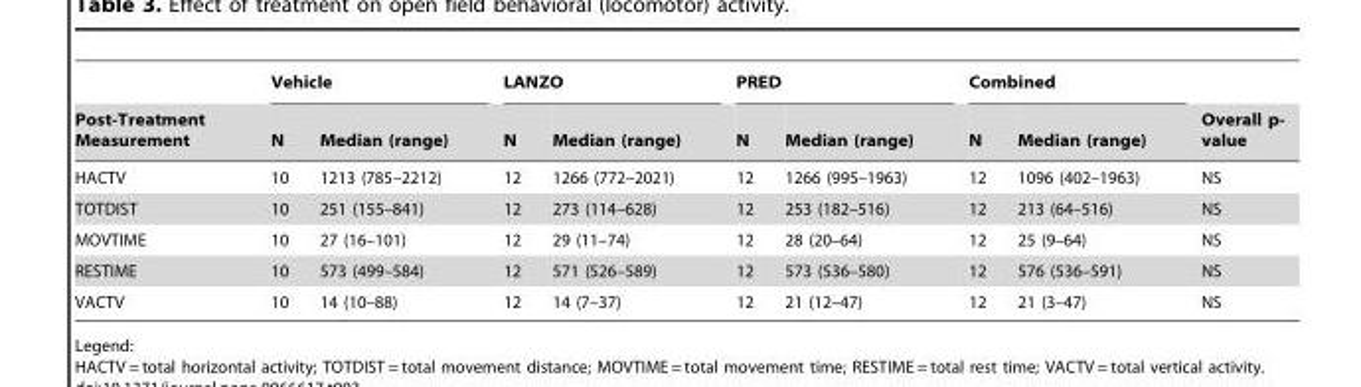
<table><thead><tr><td rowspan="2">Post-Treatment Measurement</td><td colspan="2">Vehicle</td><td colspan="2">LANZO</td><td colspan="2">PRED</td><td colspan="2">Combined</td><td rowspan="2">Overall p- value</td></tr><tr><td>N</td><td>Median (range)</td><td>N</td><td>Median (range)</td><td>N</td><td>Median (range)</td><td>N</td><td>Median (range)</td></tr></thead><tbody><tr><td>HACTV</td><td>10</td><td>1213 (785–2212)</td><td>12</td><td>1266 (772–2021)</td><td>12</td><td>1266 (995–1963)</td><td>12</td><td>1096 (402–1963)</td><td>NS</td></tr><tr><td>TOTDIST</td><td>10</td><td>251 (155–841)</td><td>12</td><td>273 (114–628)</td><td>12</td><td>253 (182–516)</td><td>12</td><td>213 (64–516)</td><td>NS</td></tr><tr><td>MOVTIME</td><td>10</td><td>27 (16–101)</td><td>12</td><td>29 (11–74)</td><td>12</td><td>28 (20–64)</td><td>12</td><td>25 (9–64)</td><td>NS</td></tr><tr><td>RESTIME</td><td>10</td><td>573 (499–584)</td><td>12</td><td>571 (526–589)</td><td>12</td><td>573 (536–580)</td><td>12</td><td>576 (536–591)</td><td>NS</td></tr><tr><td>VACTV</td><td>10</td><td>14 (10–88)</td><td>12</td><td>14 (7–37)</td><td>12</td><td>21 (12–47)</td><td>12</td><td>21 (3–47)</td><td>NS</td></tr></tbody></table>